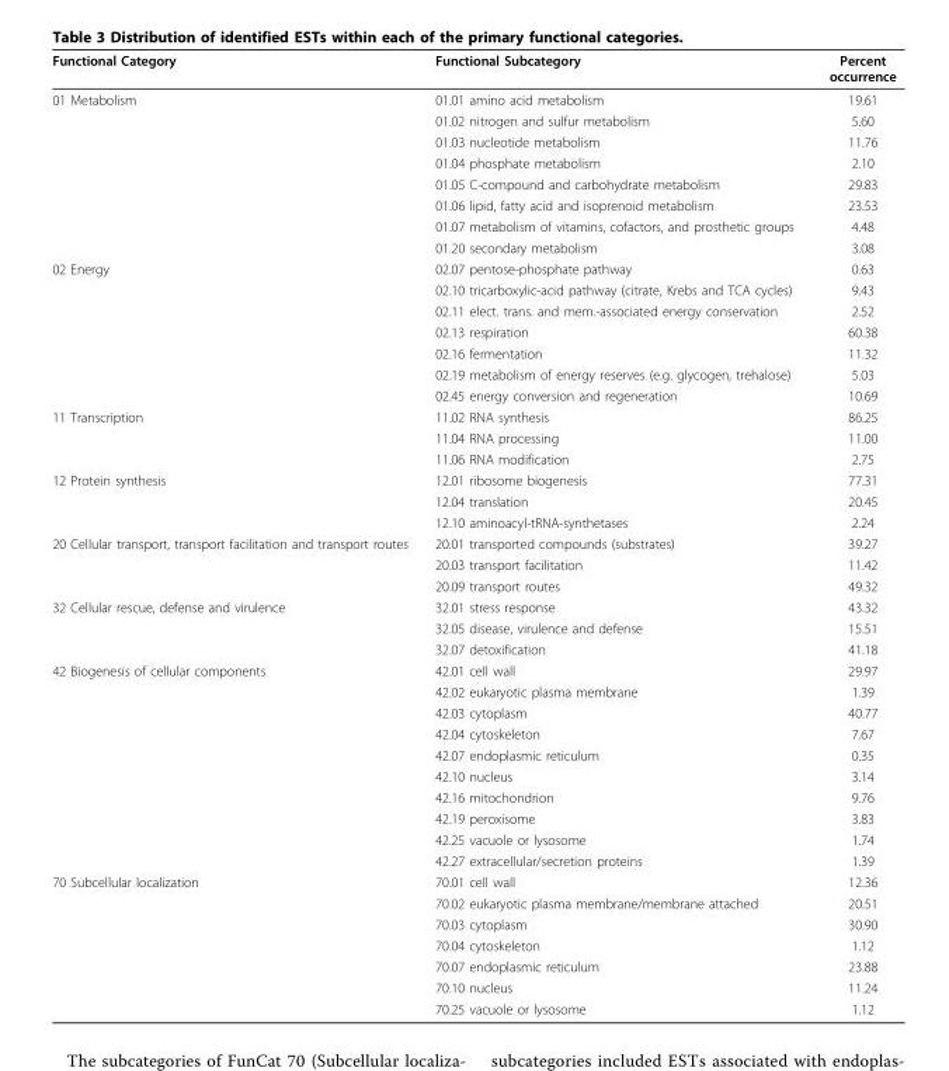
<table><thead><tr><td>Functional Category</td><td>Functional Subcategory</td><td>Percent occurrence</td></tr></thead><tbody><tr><td rowspan="8">01 Metabolism</td><td>01.01 amino acid metabolism</td><td>19.61</td></tr><tr><td>01.02 nitrogen and sulfur metabolism</td><td>5.60</td></tr><tr><td>01.03 nucleotide metabolism</td><td>11.76</td></tr><tr><td>01.04 phosphate metabolism</td><td>2.10</td></tr><tr><td>01.05 C-compound and carbohydrate metabolism</td><td>29.83</td></tr><tr><td>01.06 lipid, fatty acid and isoprenoid metabolism</td><td>23.53</td></tr><tr><td>01.07 metabolism of vitamins, cofactors, and prosthetic groups</td><td>4.48</td></tr><tr><td>01.20 secondary metabolism</td><td>3.08</td></tr><tr><td rowspan="7">02 Energy</td><td>02.07 pentose-phosphate pathway</td><td>0.63</td></tr><tr><td>02.10 tricarboxylic-acid pathway (citrate, Krebs and TCA cycles)</td><td>9.43</td></tr><tr><td>02.11 elect. trans. and mem.-associated energy conservation</td><td>2.52</td></tr><tr><td>02.13 respiration</td><td>60.38</td></tr><tr><td>02.16 fermentation</td><td>11.32</td></tr><tr><td>02.19 metabolism of energy reserves (e.g. glycogen, trehalose)</td><td>5.03</td></tr><tr><td>02.45 energy conversion and regeneration</td><td>10.69</td></tr><tr><td rowspan="3">11 Transcription</td><td>11.02 RNA synthesis</td><td>86.25</td></tr><tr><td>11.04 RNA processing</td><td>11.00</td></tr><tr><td>11.06 RNA modification</td><td>2.75</td></tr><tr><td rowspan="3">12 Protein synthesis</td><td>12.01 ribosome biogenesis</td><td>77.31</td></tr><tr><td>12.04 translation</td><td>20.45</td></tr><tr><td>12.10 aminoacyl-tRNA-synthetases</td><td>2.24</td></tr><tr><td rowspan="3">20 Cellular transport, transport facilitation and transport routes</td><td>20.01 transported compounds (substrates)</td><td>39.27</td></tr><tr><td>20.03 transport facilitation</td><td>11.42</td></tr><tr><td>20.09 transport routes</td><td>49.32</td></tr><tr><td rowspan="3">32 Cellular rescue, defense and virulence</td><td>32.01 stress response</td><td>43.32</td></tr><tr><td>32.05 disease, virulence and defense</td><td>15.51</td></tr><tr><td>32.07 detoxification</td><td>41.18</td></tr><tr><td rowspan="10">42 Biogenesis of cellular components</td><td>42.01 cell wall</td><td>29.97</td></tr><tr><td>42.02 eukaryotic plasma membrane</td><td>1.39</td></tr><tr><td>42.03 cytoplasm</td><td>40.77</td></tr><tr><td>42.04 cytoskeleton</td><td>7.67</td></tr><tr><td>42.07 endoplasmic reticulum</td><td>0.35</td></tr><tr><td>42.10 nucleus</td><td>3.14</td></tr><tr><td>42.16 mitochondrion</td><td>9.76</td></tr><tr><td>42.19 peroxisome</td><td>3.83</td></tr><tr><td>42.25 vacuole or lysosome</td><td>1.74</td></tr><tr><td>42.27 extracellular/secretion proteins</td><td>1.39</td></tr><tr><td rowspan="7">70 Subcellular localization</td><td>70.01 cell wall</td><td>12.36</td></tr><tr><td>70.02 eukaryotic plasma membrane/membrane attached</td><td>20.51</td></tr><tr><td>70.03 cytoplasm</td><td>30.90</td></tr><tr><td>70.04 cytoskeleton</td><td>1.12</td></tr><tr><td>70.07 endoplasmic reticulum</td><td>23.88</td></tr><tr><td>70.10 nucleus</td><td>11.24</td></tr><tr><td>70.25 vacuole or lysosome</td><td>1.12</td></tr></tbody></table>